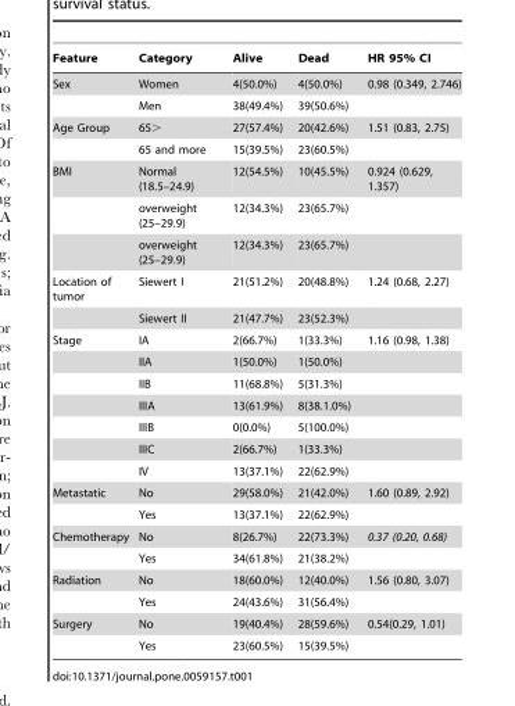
<table><thead><tr><td>Feature</td><td>Category</td><td>Alive</td><td>Dead</td><td>HR 95% CI</td></tr></thead><tbody><tr><td rowspan="2">Sex</td><td>Women</td><td>4(50.0%)</td><td>4(50.0%)</td><td>0.98 (0.349, 2.746)</td></tr><tr><td>Men</td><td>38(49.4%)</td><td>39(50.6%)</td><td></td></tr><tr><td rowspan="2">Age Group</td><td>65&gt;</td><td>27(57.4%)</td><td>20(42.6%)</td><td>1.51 (0.83, 2.75)</td></tr><tr><td>65 and more</td><td>15(39.5%)</td><td>23(60.5%)</td><td></td></tr><tr><td rowspan="3">BMI</td><td>Normal (18.5–24.9)</td><td>12(54.5%)</td><td>10(45.5%)</td><td>0.924 (0.629, 1.357)</td></tr><tr><td>overweight (25–29.9)</td><td>12(34.3%)</td><td>23(65.7%)</td><td></td></tr><tr><td>overweight (25–29.9)</td><td>12(34.3%)</td><td>23(65.7%)</td><td></td></tr><tr><td rowspan="2">Location of tumor</td><td>Siewert I</td><td>21(51.2%)</td><td>20(48.8%)</td><td>1.24 (0.68, 2.27)</td></tr><tr><td>Siewert II</td><td>21(47.7%)</td><td>23(52.3%)</td><td></td></tr><tr><td rowspan="7">Stage</td><td>IA</td><td>2(66.7%)</td><td>1(33.3%)</td><td>1.16 (0.98, 1.38)</td></tr><tr><td>IIA</td><td>1(50.0%)</td><td>1(50.0%)</td><td></td></tr><tr><td>IIB</td><td>11(68.8%)</td><td>5(31.3%)</td><td></td></tr><tr><td>IIIA</td><td>13(61.9%)</td><td>8(38.1.0%)</td><td></td></tr><tr><td>IIIB</td><td>0(0.0%)</td><td>5(100.0%)</td><td></td></tr><tr><td>IIIC</td><td>2(66.7%)</td><td>1(33.3%)</td><td></td></tr><tr><td>IV</td><td>13(37.1%)</td><td>22(62.9%)</td><td></td></tr><tr><td rowspan="2">Metastatic</td><td>No</td><td>29(58.0%)</td><td>21(42.0%)</td><td>1.60 (0.89, 2.92)</td></tr><tr><td>Yes</td><td>13(37.1%)</td><td>22(62.9%)</td><td></td></tr><tr><td rowspan="2">Chemotherapy</td><td>No</td><td>8(26.7%)</td><td>22(73.3%)</td><td>0.37 (0.20, 0.68)</td></tr><tr><td>Yes</td><td>34(61.8%)</td><td>21(38.2%)</td><td></td></tr><tr><td rowspan="2">Radiation</td><td>No</td><td>18(60.0%)</td><td>12(40.0%)</td><td>1.56 (0.80, 3.07)</td></tr><tr><td>Yes</td><td>24(43.6%)</td><td>31(56.4%)</td><td></td></tr><tr><td rowspan="2">Surgery</td><td>No</td><td>19(40.4%)</td><td>28(59.6%)</td><td>0.54(0.29, 1.01)</td></tr><tr><td>Yes</td><td>23(60.5%)</td><td>15(39.5%)</td><td></td></tr></tbody></table>